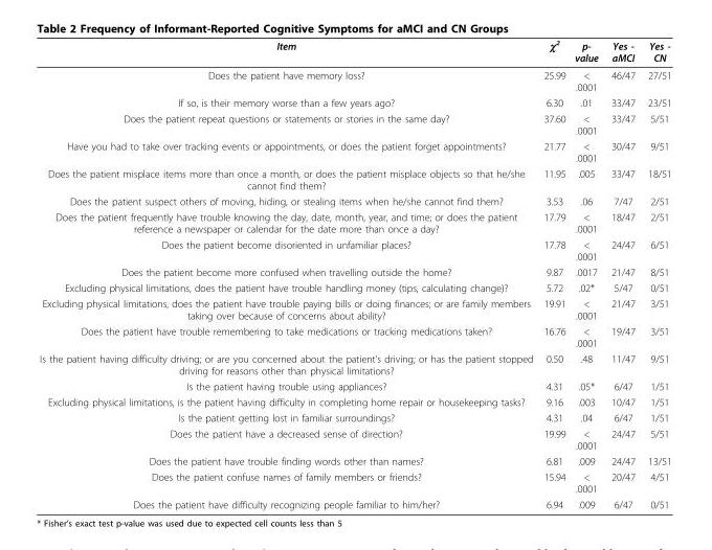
<table><thead><tr><td>Item</td><td>χ<sup>2</sup></td><td>p- value</td><td>Yes - aMCI</td><td>Yes - CN</td></tr></thead><tbody><tr><td>Does the patient have memory loss?</td><td>25.99</td><td>&lt; .0001</td><td>46/47</td><td>27/51</td></tr><tr><td>If so, is their memory worse than a few years ago?</td><td>6.30</td><td>.01</td><td>33/47</td><td>23/51</td></tr><tr><td>Does the patient repeat questions or statements or stories in the same day?</td><td>37.60</td><td>&lt; .0001</td><td>33/47</td><td>5/51</td></tr><tr><td>Have you had to take over tracking events or appointments, or does the patient forget appointments?</td><td>21.77</td><td>&lt; .0001</td><td>30/47</td><td>9/51</td></tr><tr><td>Does the patient misplace items more than once a month, or does the patient misplace objects so that he/she cannot find them?</td><td>11.95</td><td>.005</td><td>33/47</td><td>18/51</td></tr><tr><td>Does the patient suspect others of moving, hiding, or stealing items when he/she cannot find them?</td><td>3.53</td><td>.06</td><td>7/47</td><td>2/51</td></tr><tr><td>Does the patient frequently have trouble knowing the day, date, month, year, and time; or does the patient reference a newspaper or calendar for the date more than once a day?</td><td>17.79</td><td>&lt; .0001</td><td>18/47</td><td>2/51</td></tr><tr><td>Does the patient become disoriented in unfamiliar places?</td><td>17.78</td><td>&lt; .0001</td><td>24/47</td><td>6/51</td></tr><tr><td>Does the patient become more confused when travelling outside the home?</td><td>9.87</td><td>.0017</td><td>21/47</td><td>8/51</td></tr><tr><td>Excluding physical limitations, does the patient have trouble handling money (tips, calculating change)?</td><td>5.72</td><td>.02*</td><td>5/47</td><td>0/51</td></tr><tr><td>Excluding physical limitations, does the patient have trouble paying bills or doing finances; or are family members taking over because of concerns about ability?</td><td>19.91</td><td>&lt; .0001</td><td>21/47</td><td>3/51</td></tr><tr><td>Does the patient have trouble remembering to take medications or tracking medications taken?</td><td>16.76</td><td>&lt; .0001</td><td>19/47</td><td>3/51</td></tr><tr><td>Is the patient having difficulty driving; or are you concerned about the patient’s driving; or has the patient stopped driving for reasons other than physical limitations?</td><td>0.50</td><td>.48</td><td>11/47</td><td>9/51</td></tr><tr><td>Is the patient having trouble using appliances?</td><td>4.31</td><td>.05*</td><td>6/47</td><td>1/51</td></tr><tr><td>Excluding physical limitations, is the patient having difficulty in completing home repair or housekeeping tasks?</td><td>9.16</td><td>.003</td><td>10/47</td><td>1/51</td></tr><tr><td>Is the patient getting lost in familiar surroundings?</td><td>4.31</td><td>.04</td><td>6/47</td><td>1/51</td></tr><tr><td>Does the patient have a decreased sense of direction?</td><td>19.99</td><td>&lt; .0001</td><td>24/47</td><td>5/51</td></tr><tr><td>Does the patient have trouble finding words other than names?</td><td>6.81</td><td>.009</td><td>24/47</td><td>13/51</td></tr><tr><td>Does the patient confuse names of family members or friends?</td><td>15.94</td><td>&lt; .0001</td><td>20/47</td><td>4/51</td></tr><tr><td>Does the patient have difficulty recognizing people familiar to him/her?</td><td>6.94</td><td>.009</td><td>6/47</td><td>0/51</td></tr></tbody></table>